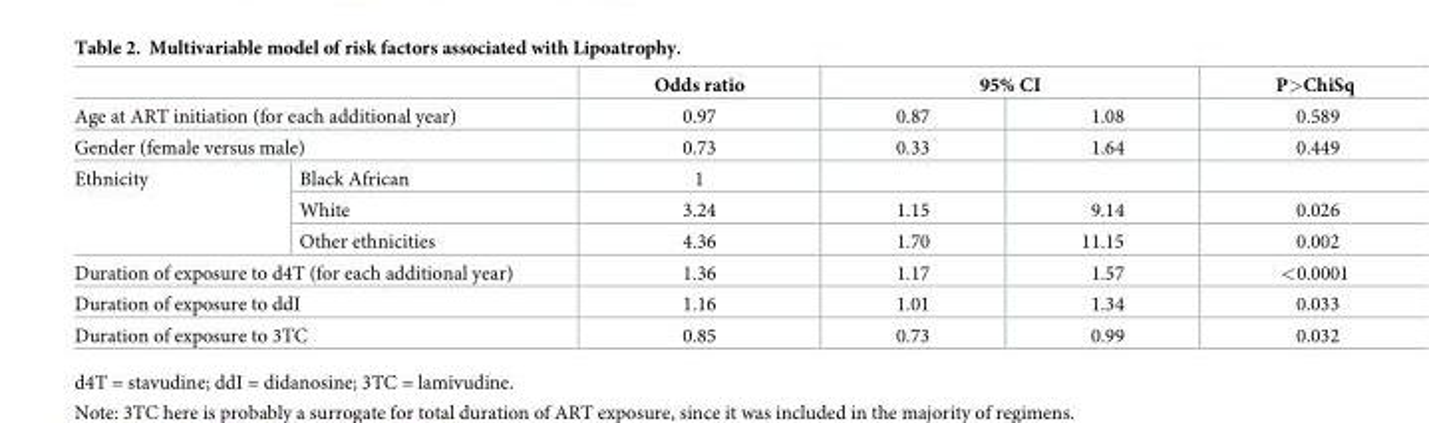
<table><thead><tr><td></td><td></td><td rowspan="2">Odds ratio 0.97</td><td colspan="2">95% CI</td><td rowspan="2">P&gt;ChiSq 0.589</td></tr><tr><td colspan="2">Age at ART initiation (for each additional year)</td><td>0.87</td><td>1.08</td></tr></thead><tbody><tr><td colspan="2">Gender (female versus male)</td><td>0.73</td><td>0.33</td><td>1.64</td><td>0.449</td></tr><tr><td rowspan="3">Ethnicity</td><td>Black African</td><td>1</td><td></td><td></td><td></td></tr><tr><td>White</td><td>3.24</td><td>1.15</td><td>9.14</td><td>0.026</td></tr><tr><td>Other ethnicities</td><td>4.36</td><td>1.70</td><td>11.15</td><td>0.002</td></tr><tr><td colspan="2">Duration of exposure to d4T (for each additional year)</td><td>1.36</td><td>1.17</td><td>1.57</td><td>&lt;0.0001</td></tr><tr><td colspan="2">Duration of exposure to ddI</td><td>1.16</td><td>1.01</td><td>1.34</td><td>0.033</td></tr><tr><td colspan="2">Duration of exposure to 3TC</td><td>0.85</td><td>0.73</td><td>0.99</td><td>0.032</td></tr></tbody></table>